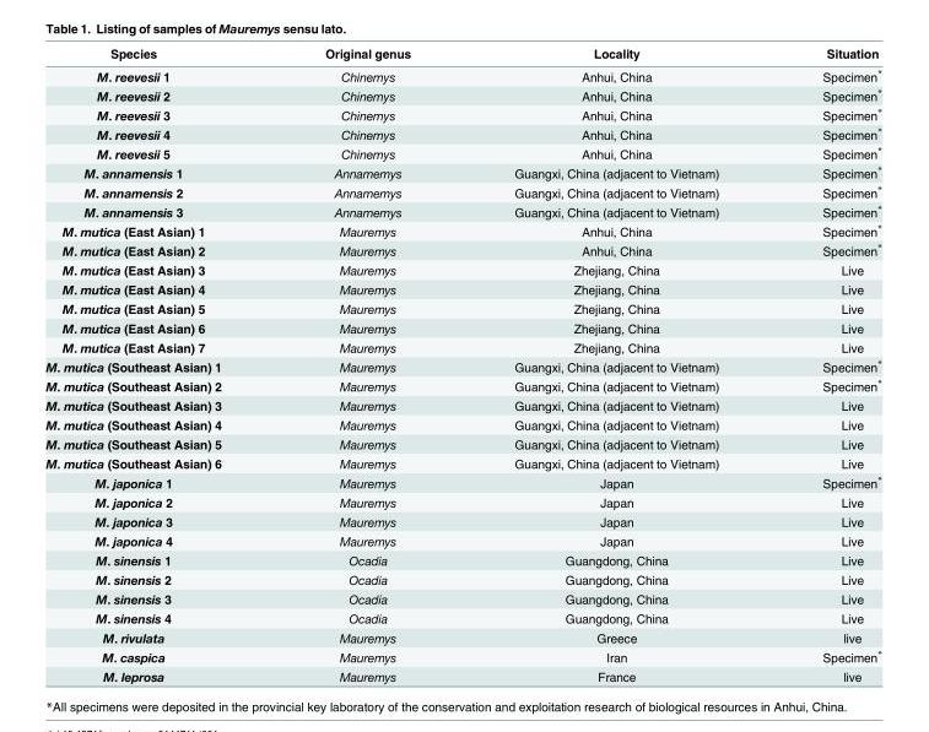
<table><thead><tr><td>Species</td><td>Original genus</td><td>Locality</td><td>Situation</td></tr></thead><tbody><tr><td>M. reevesii 1</td><td>Chinemys</td><td>Anhui, China</td><td>Specimen*</td></tr><tr><td>M. reevesii 2</td><td>Chinemys</td><td>Anhui, China</td><td>Specimen*</td></tr><tr><td>M. reevesii 3</td><td>Chinemys</td><td>Anhui, China</td><td>Specimen*</td></tr><tr><td>M. reevesii 4</td><td>Chinemys</td><td>Anhui, China</td><td>Specimen*</td></tr><tr><td>M. reevesii 5</td><td>Chinemys</td><td>Anhui, China</td><td>Specimen*</td></tr><tr><td>M. annamensis 1</td><td>Annamemys</td><td>Guangxi, China (adjacent to Vietnam)</td><td>Specimen*</td></tr><tr><td>M. annamensis 2</td><td>Annamemys</td><td>Guangxi, China (adjacent to Vietnam)</td><td>Specimen*</td></tr><tr><td>M. annamensis 3</td><td>Annamemys</td><td>Guangxi, China (adjacent to Vietnam)</td><td>Specimen*</td></tr><tr><td>M. mutica (East Asian) 1</td><td>Mauremys</td><td>Anhui, China</td><td>Specimen*</td></tr><tr><td>M. mutica (East Asian) 2</td><td>Mauremys</td><td>Anhui, China</td><td>Specimen*</td></tr><tr><td>M. mutica (East Asian) 3</td><td>Mauremys</td><td>Zhejiang, China</td><td>Live</td></tr><tr><td>M. mutica (East Asian) 4</td><td>Mauremys</td><td>Zhejiang, China</td><td>Live</td></tr><tr><td>M. mutica (East Asian) 5</td><td>Mauremys</td><td>Zhejiang, China</td><td>Live</td></tr><tr><td>M. mutica (East Asian) 6</td><td>Mauremys</td><td>Zhejiang, China</td><td>Live</td></tr><tr><td>M. mutica (East Asian) 7</td><td>Mauremys</td><td>Zhejiang, China</td><td>Live</td></tr><tr><td>M. mutica (Southeast Asian) 1</td><td>Mauremys</td><td>Guangxi, China (adjacent to Vietnam)</td><td>Specimen*</td></tr><tr><td>M. mutica (Southeast Asian) 2</td><td>Mauremys</td><td>Guangxi, China (adjacent to Vietnam)</td><td>Specimen*</td></tr><tr><td>M. mutica (Southeast Asian) 3</td><td>Mauremys</td><td>Guangxi, China (adjacent to Vietnam)</td><td>Live</td></tr><tr><td>M. mutica (Southeast Asian) 4</td><td>Mauremys</td><td>Guangxi, China (adjacent to Vietnam)</td><td>Live</td></tr><tr><td>M. mutica (Southeast Asian) 5</td><td>Mauremys</td><td>Guangxi, China (adjacent to Vietnam)</td><td>Live</td></tr><tr><td>M. mutica (Southeast Asian) 6</td><td>Mauremys</td><td>Guangxi, China (adjacent to Vietnam)</td><td>Live</td></tr><tr><td>M. japonica 1</td><td>Mauremys</td><td>Japan</td><td>Specimen*</td></tr><tr><td>M. japonica 2</td><td>Mauremys</td><td>Japan</td><td>Live</td></tr><tr><td>M. japonica 3</td><td>Mauremys</td><td>Japan</td><td>Live</td></tr><tr><td>M. japonica 4</td><td>Mauremys</td><td>Japan</td><td>Live</td></tr><tr><td>M. sinensis 1</td><td>Ocadia</td><td>Guangdong, China</td><td>Live</td></tr><tr><td>M. sinensis 2</td><td>Ocadia</td><td>Guangdong, China</td><td>Live</td></tr><tr><td>M. sinensis 3</td><td>Ocadia</td><td>Guangdong, China</td><td>Live</td></tr><tr><td>M. sinensis 4</td><td>Ocadia</td><td>Guangdong, China</td><td>Live</td></tr><tr><td>M. rivulata</td><td>Mauremys</td><td>Greece</td><td>live</td></tr><tr><td>M. caspica</td><td>Mauremys</td><td>Iran</td><td>Specimen*</td></tr><tr><td>M. leprosa</td><td>Mauremys</td><td>France</td><td>live</td></tr></tbody></table>